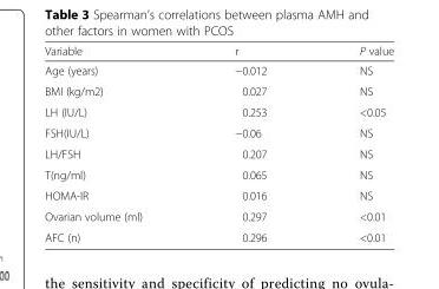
<table><thead><tr><td>Variable</td><td>r</td><td>P value</td></tr></thead><tbody><tr><td>Age (years)</td><td>−0.012</td><td>NS</td></tr><tr><td>BMI (kg/m2)</td><td>0.027</td><td>NS</td></tr><tr><td>LH (IU/L)</td><td>0.253</td><td>&lt;0.05</td></tr><tr><td>FSH(IU/L)</td><td>−0.06</td><td>NS</td></tr><tr><td>LH/FSH</td><td>0.207</td><td>NS</td></tr><tr><td>T(ng/ml)</td><td>0.065</td><td>NS</td></tr><tr><td>HOMA-IR</td><td>0.016</td><td>NS</td></tr><tr><td>Ovarian volume (ml)</td><td>0.297</td><td>&lt;0.01</td></tr><tr><td>AFC (n)</td><td>0.296</td><td>&lt;0.01</td></tr></tbody></table>